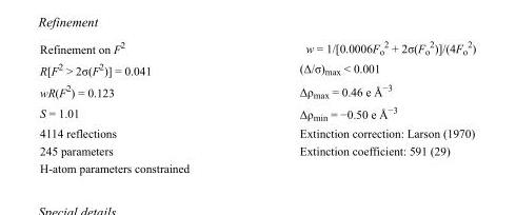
<table><tbody><tr><td>Refinement on F<sup>2</sup></td><td>w = 1/[0.0006F<sub>o</sub> <sup>2</sup> + 2σ(F<sub>o</sub> <sup>2</sup>)]/(4F<sub>o</sub> <sup>2</sup>)</td></tr><tr><td>R[F<sup>2</sup> &gt; 2σ(F<sup>2</sup>)] = 0.041</td><td>(Δ/σ)<sub>max</sub> &lt; 0.001</td></tr><tr><td>wR(F<sup>2</sup>) = 0.123</td><td>Δρ<sub>max</sub> = 0.46 e Å<sup>−3</sup></td></tr><tr><td>S = 1.01</td><td>Δρ<sub>min</sub> = −0.50 e Å<sup>−3</sup></td></tr><tr><td>4114 reflections</td><td>Extinction correction: Larson (1970)</td></tr><tr><td>245 parameters</td><td>Extinction coefficient: 591 (29)</td></tr><tr><td>H-atom parameters constrained</td><td></td></tr></tbody></table>